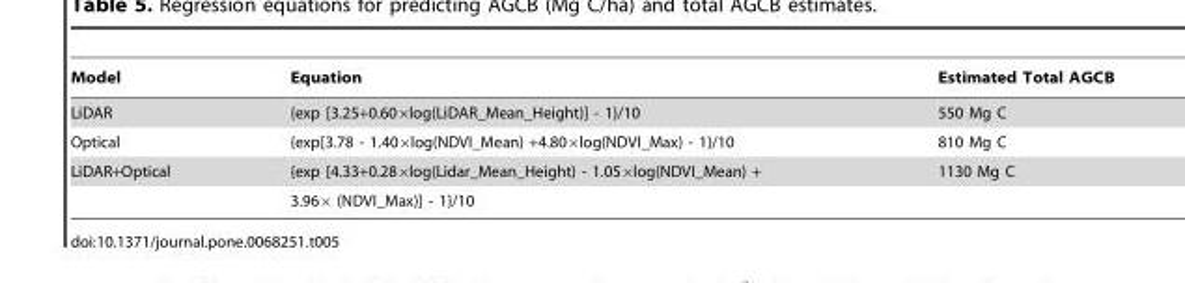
<table><thead><tr><td>Model</td><td>Equation</td><td>Estimated Total AGCB</td></tr></thead><tbody><tr><td>LiDAR</td><td>{exp [3.25+0.60×log(LiDAR_Mean_Height)] - 1}/10</td><td>550 Mg C</td></tr><tr><td>Optical</td><td>{exp[3.78 - 1.40×log(NDVI_Mean) +4.80×log(NDVI_Max) - 1}/10</td><td>810 Mg C</td></tr><tr><td rowspan="2">LiDAR+Optical</td><td>{exp [4.33+0.28×log(Lidar_Mean_Height) - 1.05×log(NDVI_Mean) +</td><td>1130 Mg C</td></tr><tr><td>3.96× (NDVI_Max)] - 1}/10</td><td></td></tr></tbody></table>